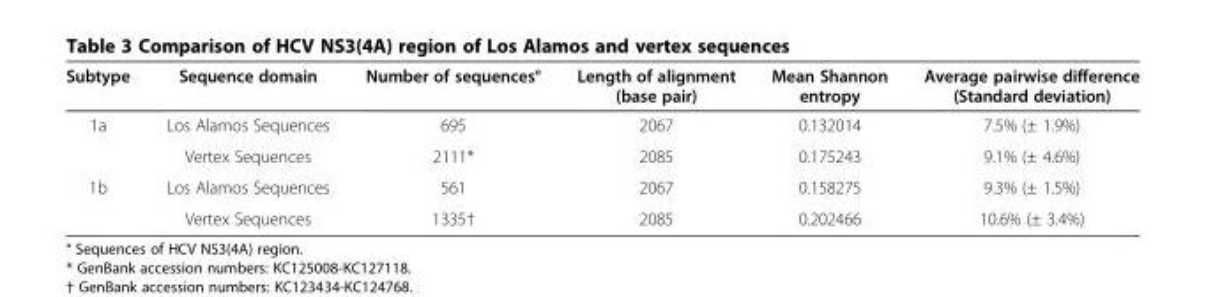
<table><thead><tr><td>Subtype</td><td>Sequence domain</td><td>Number of sequences°</td><td>Length of alignment (base pair)</td><td>Mean Shannon entropy</td><td>Average pairwise difference (Standard deviation)</td></tr></thead><tbody><tr><td rowspan="2">1a</td><td>Los Alamos Sequences</td><td>695</td><td>2067</td><td>0.132014</td><td>7.5% (± 1.9%)</td></tr><tr><td>Vertex Sequences</td><td>2111*</td><td>2085</td><td>0.175243</td><td>9.1% (± 4.6%)</td></tr><tr><td rowspan="2">1b</td><td>Los Alamos Sequences</td><td>561</td><td>2067</td><td>0.158275</td><td>9.3% (± 1.5%)</td></tr><tr><td>Vertex Sequences</td><td>1335†</td><td>2085</td><td>0.202466</td><td>10.6% (± 3.4%)</td></tr></tbody></table>